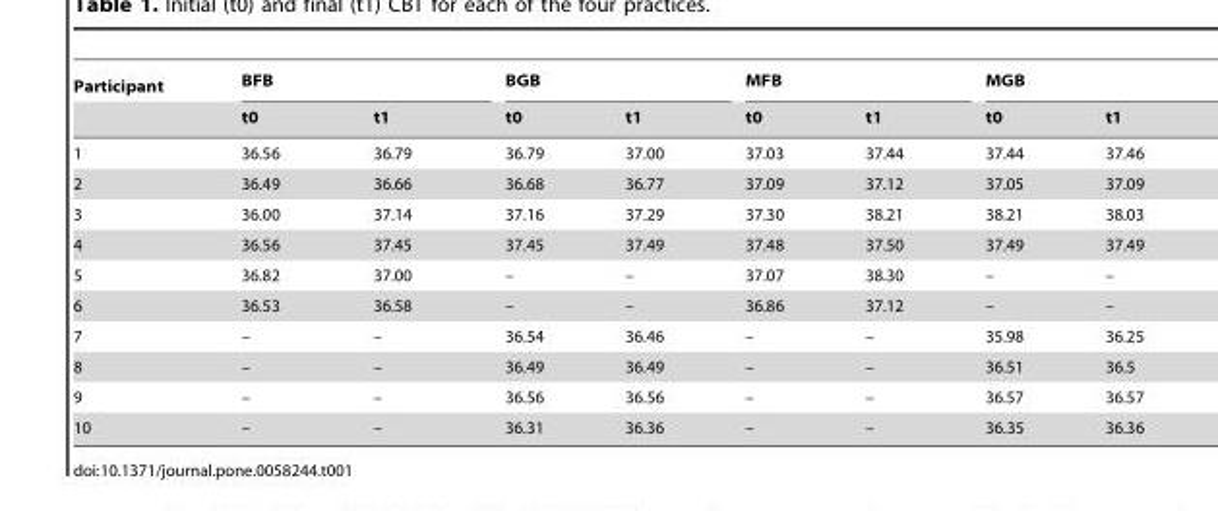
<table><thead><tr><td rowspan="2">Participant</td><td colspan="2">BFB</td><td colspan="2">BGB</td><td colspan="2">MFB</td><td colspan="2">MGB</td></tr><tr><td>t0</td><td>t1</td><td>t0</td><td>t1</td><td>t0</td><td>t1</td><td>t0</td><td>t1</td></tr></thead><tbody><tr><td>1</td><td>36.56</td><td>36.79</td><td>36.79</td><td>37.00</td><td>37.03</td><td>37.44</td><td>37.44</td><td>37.46</td></tr><tr><td>2</td><td>36.49</td><td>36.66</td><td>36.68</td><td>36.77</td><td>37.09</td><td>37.12</td><td>37.05</td><td>37.09</td></tr><tr><td>3</td><td>36.00</td><td>37.14</td><td>37.16</td><td>37.29</td><td>37.30</td><td>38.21</td><td>38.21</td><td>38.03</td></tr><tr><td>4</td><td>36.56</td><td>37.45</td><td>37.45</td><td>37.49</td><td>37.48</td><td>37.50</td><td>37.49</td><td>37.49</td></tr><tr><td>5</td><td>36.82</td><td>37.00</td><td>–</td><td>–</td><td>37.07</td><td>38.30</td><td>–</td><td>–</td></tr><tr><td>6</td><td>36.53</td><td>36.58</td><td>–</td><td>–</td><td>36.86</td><td>37.12</td><td>–</td><td>–</td></tr><tr><td>7</td><td>–</td><td>–</td><td>36.54</td><td>36.46</td><td>–</td><td>–</td><td>35.98</td><td>36.25</td></tr><tr><td>8</td><td>–</td><td>–</td><td>36.49</td><td>36.49</td><td>–</td><td>–</td><td>36.51</td><td>36.5</td></tr><tr><td>9</td><td>–</td><td>–</td><td>36.56</td><td>36.56</td><td>–</td><td>–</td><td>36.57</td><td>36.57</td></tr><tr><td>10</td><td>–</td><td>–</td><td>36.31</td><td>36.36</td><td>–</td><td>–</td><td>36.35</td><td>36.36</td></tr></tbody></table>